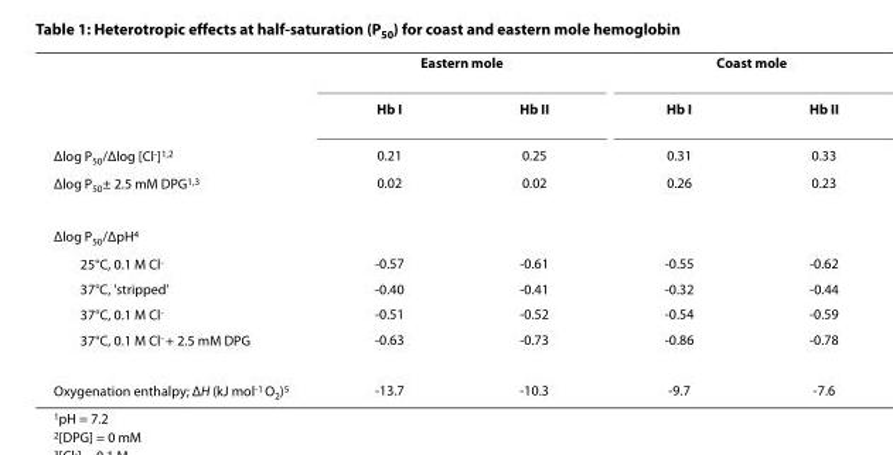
<table><thead><tr><td rowspan="2"></td><td colspan="2">Eastern mole</td><td colspan="2">Coast mole</td></tr><tr><td>Hb I</td><td>Hb II</td><td>Hb I</td><td>Hb II</td></tr></thead><tbody><tr><td>Δlog P<sub>50</sub>/Δlog [Cl<sup>-</sup>]<sup>1,2</sup></td><td>0.21</td><td>0.25</td><td>0.31</td><td>0.33</td></tr><tr><td>Δlog P<sub>50</sub>± 2.5 mM DPG<sup>1,3</sup></td><td>0.02</td><td>0.02</td><td>0.26</td><td>0.23</td></tr><tr><td colspan="5">Δlog P<sub>50</sub>/ΔpH<sup>4</sup></td></tr><tr><td>25°C, 0.1 M Cl<sup>-</sup></td><td>-0.57</td><td>-0.61</td><td>-0.55</td><td>-0.62</td></tr><tr><td>37°C, &#x27;stripped&#x27;</td><td>-0.40</td><td>-0.41</td><td>-0.32</td><td>-0.44</td></tr><tr><td>37°C, 0.1 M Cl<sup>-</sup></td><td>-0.51</td><td>-0.52</td><td>-0.54</td><td>-0.59</td></tr><tr><td>37°C, 0.1 M Cl<sup>-</sup> + 2.5 mM DPG</td><td>-0.63</td><td>-0.73</td><td>-0.86</td><td>-0.78</td></tr><tr><td>Oxygenation enthalpy; ΔH (kJ mol<sup>-1</sup> O<sub>2</sub>)<sup>5</sup></td><td>-13.7</td><td>-10.3</td><td>-9.7</td><td>-7.6</td></tr></tbody></table>